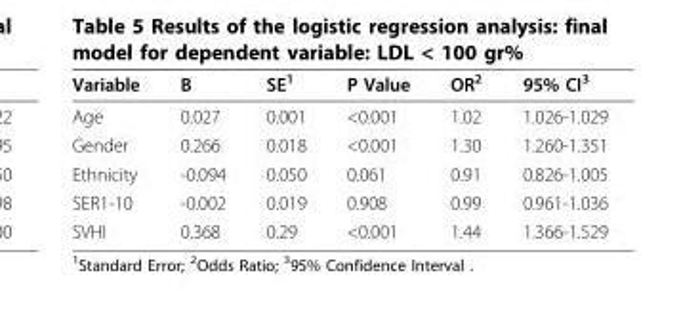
<table><thead><tr><td>Variable</td><td>B</td><td>SE<sup>1</sup></td><td>P Value</td><td>OR<sup>2</sup></td><td>95% CI<sup>3</sup></td></tr></thead><tbody><tr><td>Age</td><td>0.027</td><td>0.001</td><td>&lt;0.001</td><td>1.02</td><td>1.026-1.029</td></tr><tr><td>Gender</td><td>0.266</td><td>0.018</td><td>&lt;0.001</td><td>1.30</td><td>1.260-1.351</td></tr><tr><td>Ethnicity</td><td>-0.094</td><td>0.050</td><td>0.061</td><td>0.91</td><td>0.826-1.005</td></tr><tr><td>SER1-10</td><td>-0.002</td><td>0.019</td><td>0.908</td><td>0.99</td><td>0.961-1.036</td></tr><tr><td>SVHI</td><td>0.368</td><td>0.29</td><td>&lt;0.001</td><td>1.44</td><td>1.366-1.529</td></tr></tbody></table>